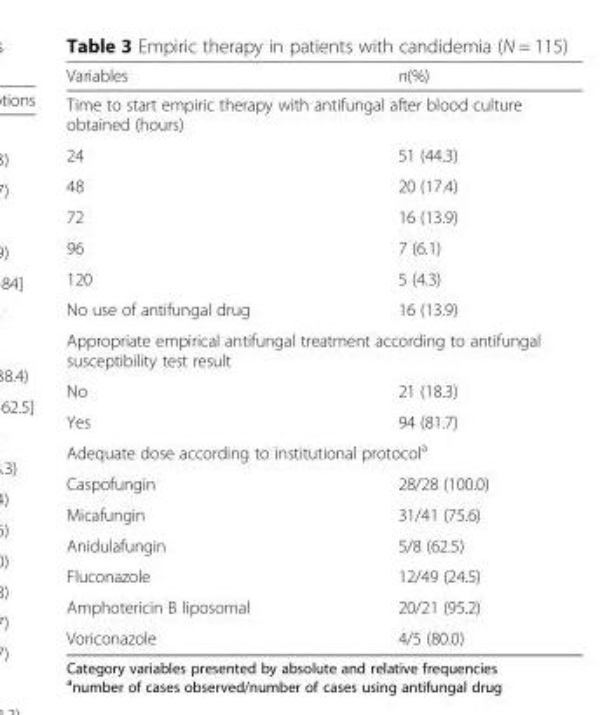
<table><thead><tr><td>Variables</td><td>n(%)</td></tr></thead><tbody><tr><td colspan="2">Time to start empiric therapy with antifungal after blood culture obtained (hours)</td></tr><tr><td>24</td><td>51 (44.3)</td></tr><tr><td>48</td><td>20 (17.4)</td></tr><tr><td>72</td><td>16 (13.9)</td></tr><tr><td>96</td><td>7 (6.1)</td></tr><tr><td>120</td><td>5 (4.3)</td></tr><tr><td>No use of antifungal drug</td><td>16 (13.9)</td></tr><tr><td colspan="2">Appropriate empirical antifungal treatment according to antifungal susceptibility test result</td></tr><tr><td>No</td><td>21 (18.3)</td></tr><tr><td>Yes</td><td>94 (81.7)</td></tr><tr><td colspan="2">Adequate dose according to institutional protocol<sup>a</sup></td></tr><tr><td>Caspofungin</td><td>28/28 (100.0)</td></tr><tr><td>Micafungin</td><td>31/41 (75.6)</td></tr><tr><td>Anidulafungin</td><td>5/8 (62.5)</td></tr><tr><td>Fluconazole</td><td>12/49 (24.5)</td></tr><tr><td>Amphotericin B liposomal</td><td>20/21 (95.2)</td></tr><tr><td>Voriconazole</td><td>4/5 (80.0)</td></tr></tbody></table>